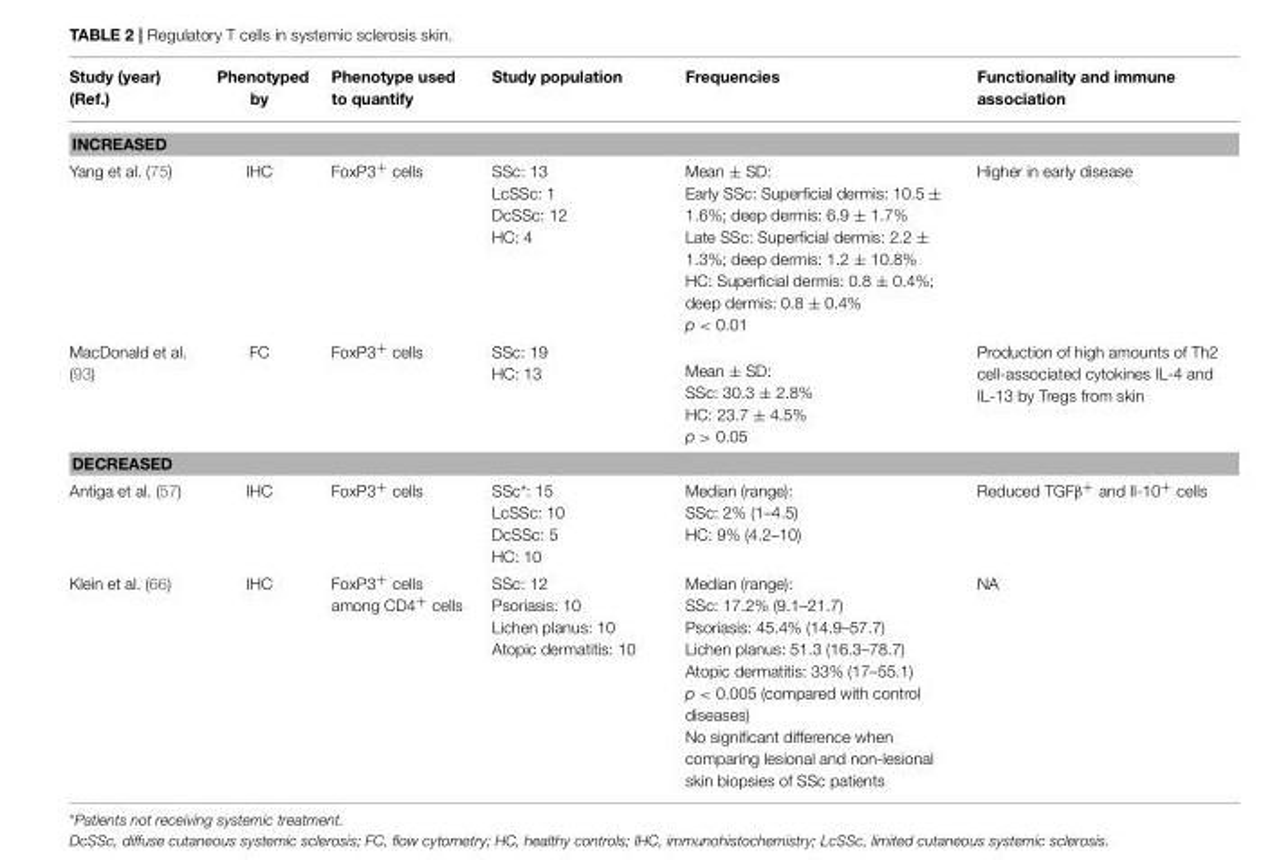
<table><thead><tr><td>Study (year) (Ref.)</td><td>Phenotyped by</td><td>Phenotype used to quantify</td><td>Study population</td><td>Frequencies</td><td>Functionality and immune association</td></tr></thead><tbody><tr><td colspan="6">INCREASED</td></tr><tr><td>Yang et al. (75)</td><td>IHC</td><td>FoxP3<sup>+</sup> cells</td><td>SSc: 13 LcSSc: 1 DcSSc: 12 HC: 4</td><td>Mean ± SD: Early SSc: Superficial dermis: 10.5 ± 1.6%; deep dermis: 6.9 ± 1.7% Late SSc: Superficial dermis: 2.2 ± 1.3%; deep dermis: 1.2 ± 10.8% HC: Superficial dermis: 0.8 ± 0.4%; deep dermis: 0.8 ± 0.4% p &lt; 0.01</td><td>Higher in early disease</td></tr><tr><td>MacDonald et al. (93)</td><td>FC</td><td>FoxP3<sup>+</sup> cells</td><td>SSc: 19 HC: 13</td><td>Mean ± SD: SSc: 30.3 ± 2.8% HC: 23.7 ± 4.5% p &gt; 0.05</td><td>Production of high amounts of Th2 cell-associated cytokines IL-4 and IL-13 by Tregs from skin</td></tr><tr><td colspan="6">DECREASED</td></tr><tr><td>Antiga et al. (57)</td><td>IHC</td><td>FoxP3<sup>+</sup> cells</td><td>SSc*: 15 LcSSc: 10 DcSSc: 5 HC: 10</td><td>Median (range): SSc: 2% (1–4.5) HC: 9% (4.2–10)</td><td>Reduced TGFβ<sup>+</sup> and Il-10<sup>+</sup> cells</td></tr><tr><td>Klein et al. (66)</td><td>IHC</td><td>FoxP3<sup>+</sup> cells among CD4<sup>+</sup> cells</td><td>SSc: 12 Psoriasis: 10 Lichen planus: 10 Atopic dermatitis: 10</td><td>Median (range): SSc: 17.2% (9.1–21.7) Psoriasis: 45.4% (14.9–57.7) Lichen planus: 51.3 (16.3–78.7) Atopic dermatitis: 33% (17–55.1) p &lt; 0.005 (compared with control diseases) No significant difference when comparing lesional and non-lesional skin biopsies of SSc patients</td><td>NA</td></tr></tbody></table>